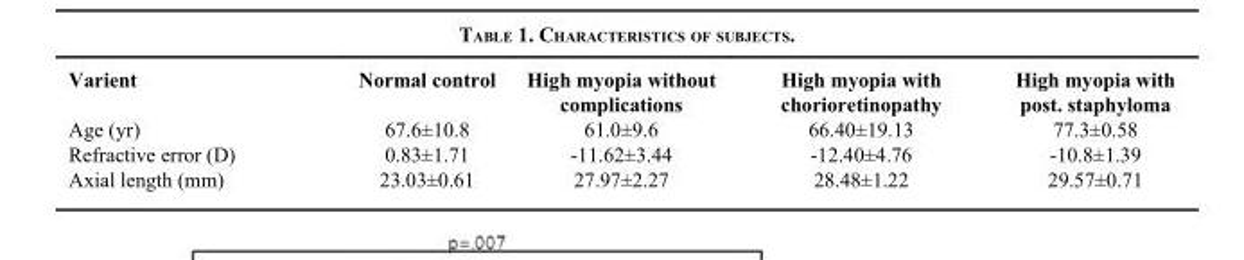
<table><thead><tr><td>Varient</td><td>Normal control</td><td>High myopia without complications</td><td>High myopia with chorioretinopathy</td><td>High myopia with post. staphyloma</td></tr></thead><tbody><tr><td>Age (yr)</td><td>67.6±10.8</td><td>61.0±9.6</td><td>66.40±19.13</td><td>77.3±0.58</td></tr><tr><td>Refractive error (D)</td><td>0.83±1.71</td><td>-11.62±3.44</td><td>-12.40±4.76</td><td>-10.8±1.39</td></tr><tr><td>Axial length (mm)</td><td>23.03±0.61</td><td>27.97±2.27</td><td>28.48±1.22</td><td>29.57±0.71</td></tr></tbody></table>